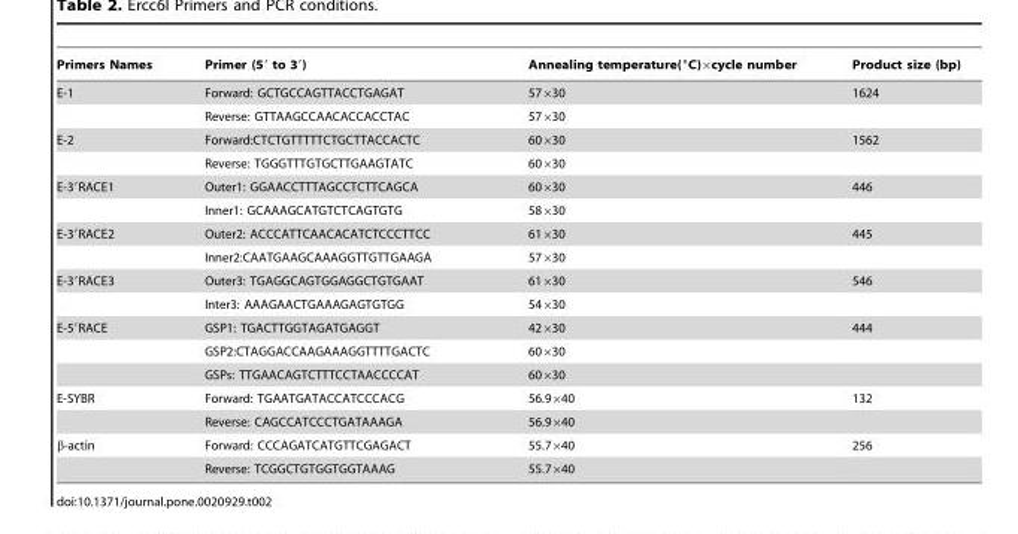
<table><thead><tr><td>Primers Names</td><td>Primer (5′ to 3′)</td><td>Annealing temperature(°C)×cycle number</td><td>Product size (bp)</td></tr></thead><tbody><tr><td rowspan="2">E-1</td><td>Forward: GCTGCCAGTTACCTGAGAT</td><td>57×30</td><td>1624</td></tr><tr><td>Reverse: GTTAAGCCAACACCACCTAC</td><td>57×30</td><td></td></tr><tr><td rowspan="2">E-2</td><td>Forward:CTCTGTTTTTCTGCTTACCACTC</td><td>60×30</td><td>1562</td></tr><tr><td>Reverse: TGGGTTTGTGCTTGAAGTATC</td><td>60×30</td><td></td></tr><tr><td rowspan="2">E-3′RACE1</td><td>Outer1: GGAACCTTTAGCCTCTTCAGCA</td><td>60×30</td><td>446</td></tr><tr><td>Inner1: GCAAAGCATGTCTCAGTGTG</td><td>58×30</td><td></td></tr><tr><td rowspan="2">E-3′RACE2</td><td>Outer2: ACCCATTCAACACATCTCCCTTCC</td><td>61×30</td><td>445</td></tr><tr><td>Inner2:CAATGAAGCAAAGGTTGTTGAAGA</td><td>57×30</td><td></td></tr><tr><td rowspan="2">E-3′RACE3</td><td>Outer3: TGAGGCAGTGGAGGCTGTGAAT</td><td>61×30</td><td>546</td></tr><tr><td>Inter3: AAAGAACTGAAAGAGTGTGG</td><td>54×30</td><td></td></tr><tr><td rowspan="3">E-5′RACE</td><td>GSP1: TGACTTGGTAGATGAGGT</td><td>42×30</td><td>444</td></tr><tr><td>GSP2:CTAGGACCAAGAAAGGTTTTGACTC</td><td>60×30</td><td></td></tr><tr><td>GSPs: TTGAACAGTCTTTCCTAACCCCAT</td><td>60×30</td><td></td></tr><tr><td rowspan="2">E-SYBR</td><td>Forward: TGAATGATACCATCCCACG</td><td>56.9×40</td><td>132</td></tr><tr><td>Reverse: CAGCCATCCCTGATAAAGA</td><td>56.9×40</td><td></td></tr><tr><td rowspan="2">β-actin</td><td>Forward: CCCAGATCATGTTCGAGACT</td><td>55.7×40</td><td>256</td></tr><tr><td>Reverse: TCGGCTGTGGTGGTAAAG</td><td>55.7×40</td><td></td></tr></tbody></table>